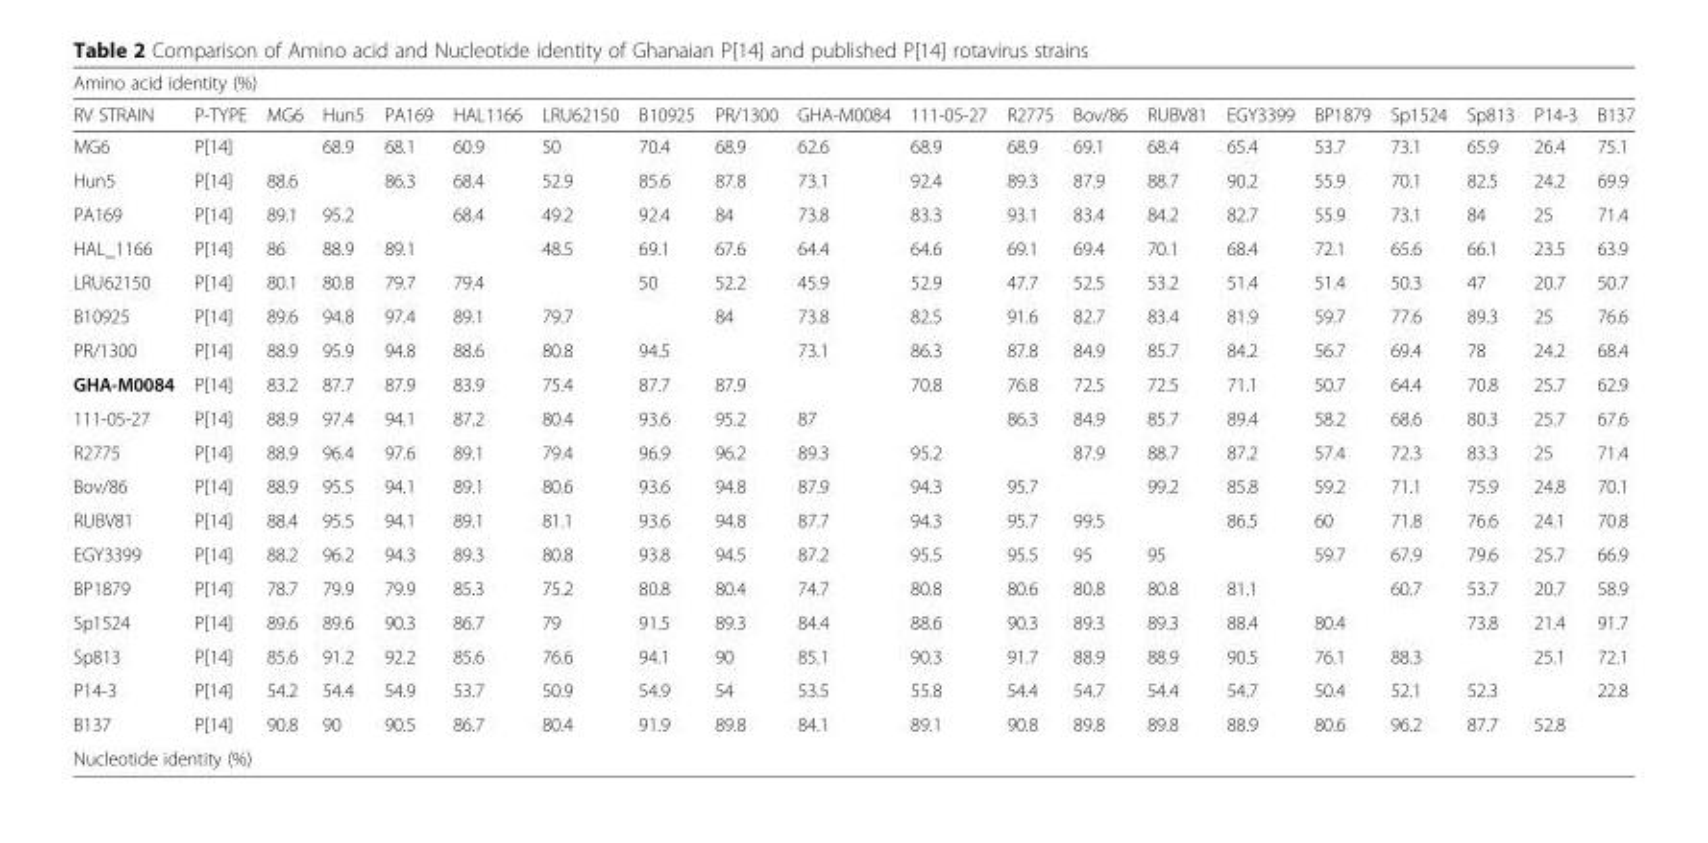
<table><thead><tr><td colspan="20">Amino acid identity (%)</td></tr><tr><td>RV STRAIN</td><td>P-TYPE</td><td>MG6</td><td>Hun5</td><td>PA169</td><td>HAL1166</td><td>LRU62150</td><td>B10925</td><td>PR/1300</td><td>GHA-M0084</td><td>111-05-27</td><td>R2775</td><td>Bov/86</td><td>RUBV81</td><td>EGY3399</td><td>BP1879</td><td>Sp1524</td><td>Sp813</td><td>P14-3</td><td>B137</td></tr></thead><tbody><tr><td>MG6</td><td>P[14]</td><td></td><td>68.9</td><td>68.1</td><td>60.9</td><td>50</td><td>70.4</td><td>68.9</td><td>62.6</td><td>68.9</td><td>68.9</td><td>69.1</td><td>68.4</td><td>65.4</td><td>53.7</td><td>73.1</td><td>65.9</td><td>26.4</td><td>75.1</td></tr><tr><td>Hun5</td><td>P[14]</td><td>88.6</td><td></td><td>86.3</td><td>68.4</td><td>52.9</td><td>85.6</td><td>87.8</td><td>73.1</td><td>92.4</td><td>89.3</td><td>87.9</td><td>88.7</td><td>90.2</td><td>55.9</td><td>70.1</td><td>82.5</td><td>24.2</td><td>69.9</td></tr><tr><td>PA169</td><td>P[14]</td><td>89.1</td><td>95.2</td><td></td><td>68.4</td><td>49.2</td><td>92.4</td><td>84</td><td>73.8</td><td>83.3</td><td>93.1</td><td>83.4</td><td>84.2</td><td>82.7</td><td>55.9</td><td>73.1</td><td>84</td><td>25</td><td>71.4</td></tr><tr><td>HAL_1166</td><td>P[14]</td><td>86</td><td>88.9</td><td>89.1</td><td></td><td>48.5</td><td>69.1</td><td>67.6</td><td>64.4</td><td>64.6</td><td>69.1</td><td>69.4</td><td>70.1</td><td>68.4</td><td>72.1</td><td>65.6</td><td>66.1</td><td>23.5</td><td>63.9</td></tr><tr><td>LRU62150</td><td>P[14]</td><td>80.1</td><td>80.8</td><td>79.7</td><td>79.4</td><td></td><td>50</td><td>52.2</td><td>45.9</td><td>52.9</td><td>47.7</td><td>52.5</td><td>53.2</td><td>51.4</td><td>51.4</td><td>50.3</td><td>47</td><td>20.7</td><td>50.7</td></tr><tr><td>B10925</td><td>P[14]</td><td>89.6</td><td>94.8</td><td>97.4</td><td>89.1</td><td>79.7</td><td></td><td>84</td><td>73.8</td><td>82.5</td><td>91.6</td><td>82.7</td><td>83.4</td><td>81.9</td><td>59.7</td><td>77.6</td><td>89.3</td><td>25</td><td>76.6</td></tr><tr><td>PR/1300</td><td>P[14]</td><td>88.9</td><td>95.9</td><td>94.8</td><td>88.6</td><td>80.8</td><td>94.5</td><td></td><td>73.1</td><td>86.3</td><td>87.8</td><td>84.9</td><td>85.7</td><td>84.2</td><td>56.7</td><td>69.4</td><td>78</td><td>24.2</td><td>68.4</td></tr><tr><td>GHA-M0084</td><td>P[14]</td><td>83.2</td><td>87.7</td><td>87.9</td><td>83.9</td><td>75.4</td><td>87.7</td><td>87.9</td><td></td><td>70.8</td><td>76.8</td><td>72.5</td><td>72.5</td><td>71.1</td><td>50.7</td><td>64.4</td><td>70.8</td><td>25.7</td><td>62.9</td></tr><tr><td>111-05-27</td><td>P[14]</td><td>88.9</td><td>97.4</td><td>94.1</td><td>87.2</td><td>80.4</td><td>93.6</td><td>95.2</td><td>87</td><td></td><td>86.3</td><td>84.9</td><td>85.7</td><td>89.4</td><td>58.2</td><td>68.6</td><td>80.3</td><td>25.7</td><td>67.6</td></tr><tr><td>R2775</td><td>P[14]</td><td>88.9</td><td>96.4</td><td>97.6</td><td>89.1</td><td>79.4</td><td>96.9</td><td>96.2</td><td>89.3</td><td>95.2</td><td></td><td>87.9</td><td>88.7</td><td>87.2</td><td>57.4</td><td>72.3</td><td>83.3</td><td>25</td><td>71.4</td></tr><tr><td>Bov/86</td><td>P[14]</td><td>88.9</td><td>95.5</td><td>94.1</td><td>89.1</td><td>80.6</td><td>93.6</td><td>94.8</td><td>87.9</td><td>94.3</td><td>95.7</td><td></td><td>99.2</td><td>85.8</td><td>59.2</td><td>71.1</td><td>75.9</td><td>24.8</td><td>70.1</td></tr><tr><td>RUBV81</td><td>P[14]</td><td>88.4</td><td>95.5</td><td>94.1</td><td>89.1</td><td>81.1</td><td>93.6</td><td>94.8</td><td>87.7</td><td>94.3</td><td>95.7</td><td>99.5</td><td></td><td>86.5</td><td>60</td><td>71.8</td><td>76.6</td><td>24.1</td><td>70.8</td></tr><tr><td>EGY3399</td><td>P[14]</td><td>88.2</td><td>96.2</td><td>94.3</td><td>89.3</td><td>80.8</td><td>93.8</td><td>94.5</td><td>87.2</td><td>95.5</td><td>95.5</td><td>95</td><td>95</td><td></td><td>59.7</td><td>67.9</td><td>79.6</td><td>25.7</td><td>66.9</td></tr><tr><td>BP1879</td><td>P[14]</td><td>78.7</td><td>79.9</td><td>79.9</td><td>85.3</td><td>75.2</td><td>80.8</td><td>80.4</td><td>74.7</td><td>80.8</td><td>80.6</td><td>80.8</td><td>80.8</td><td>81.1</td><td></td><td>60.7</td><td>53.7</td><td>20.7</td><td>58.9</td></tr><tr><td>Sp1524</td><td>P[14]</td><td>89.6</td><td>89.6</td><td>90.3</td><td>86.7</td><td>79</td><td>91.5</td><td>89.3</td><td>84.4</td><td>88.6</td><td>90.3</td><td>89.3</td><td>89.3</td><td>88.4</td><td>80.4</td><td></td><td>73.8</td><td>21.4</td><td>91.7</td></tr><tr><td>Sp813</td><td>P[14]</td><td>85.6</td><td>91.2</td><td>92.2</td><td>85.6</td><td>76.6</td><td>94.1</td><td>90</td><td>85.1</td><td>90.3</td><td>91.7</td><td>88.9</td><td>88.9</td><td>90.5</td><td>76.1</td><td>88.3</td><td></td><td>25.1</td><td>72.1</td></tr><tr><td>P14-3</td><td>P[14]</td><td>54.2</td><td>54.4</td><td>54.9</td><td>53.7</td><td>50.9</td><td>54.9</td><td>54</td><td>53.5</td><td>55.8</td><td>54.4</td><td>54.7</td><td>54.4</td><td>54.7</td><td>50.4</td><td>52.1</td><td>52.3</td><td></td><td>22.8</td></tr><tr><td>B137</td><td>P[14]</td><td>90.8</td><td>90</td><td>90.5</td><td>86.7</td><td>80.4</td><td>91.9</td><td>89.8</td><td>84.1</td><td>89.1</td><td>90.8</td><td>89.8</td><td>89.8</td><td>88.9</td><td>80.6</td><td>96.2</td><td>87.7</td><td>52.8</td><td></td></tr><tr><td colspan="20">Nucleotide identity (%)</td></tr></tbody></table>